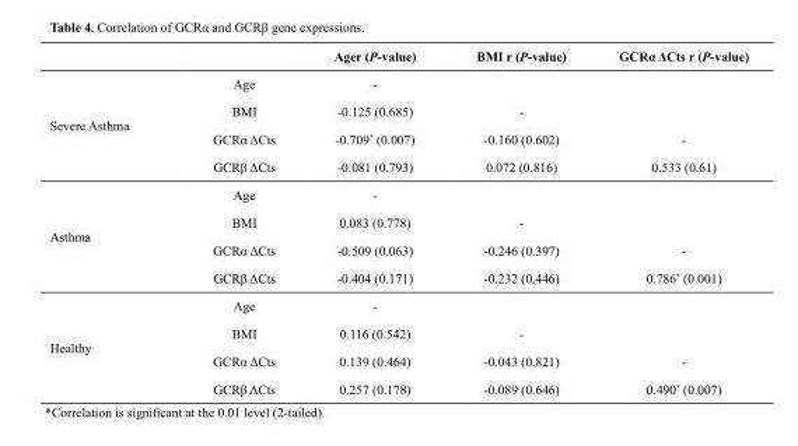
<table><thead><tr><td></td><td></td><td>Ager (P-value)</td><td>BMI r (P-value)</td><td>GCRα ΔCts r (P-value)</td></tr></thead><tbody><tr><td rowspan="4">Severe Asthma</td><td>Age</td><td>-</td><td></td><td></td></tr><tr><td>BMI</td><td>-0.125 (0.685)</td><td>-</td><td></td></tr><tr><td>GCRα ΔCts</td><td>-0.709* (0.007)</td><td>-0.160 (0.602)</td><td>-</td></tr><tr><td>GCRβ ΔCts</td><td>-0.081 (0.793)</td><td>0.072 (0.816)</td><td>0.533 (0.61)</td></tr><tr><td rowspan="4">Asthma</td><td>Age</td><td>-</td><td></td><td></td></tr><tr><td>BMI</td><td>0.083 (0.778)</td><td>-</td><td></td></tr><tr><td>GCRα ΔCts</td><td>-0.509 (0.063)</td><td>-0.246 (0.397)</td><td>-</td></tr><tr><td>GCRβ ΔCts</td><td>-0.404 (0.171)</td><td>-0.232 (0.446)</td><td>0.786* (0.001)</td></tr><tr><td rowspan="4">Healthy</td><td>Age</td><td>-</td><td></td><td></td></tr><tr><td>BMI</td><td>0.116 (0.542)</td><td>-</td><td></td></tr><tr><td>GCRα ΔCts</td><td>0.139 (0.464)</td><td>-0.043 (0.821)</td><td>-</td></tr><tr><td>GCRβ ΔCts</td><td>0.257 (0.178)</td><td>-0.089 (0.646)</td><td>0.490* (0.007)</td></tr></tbody></table>